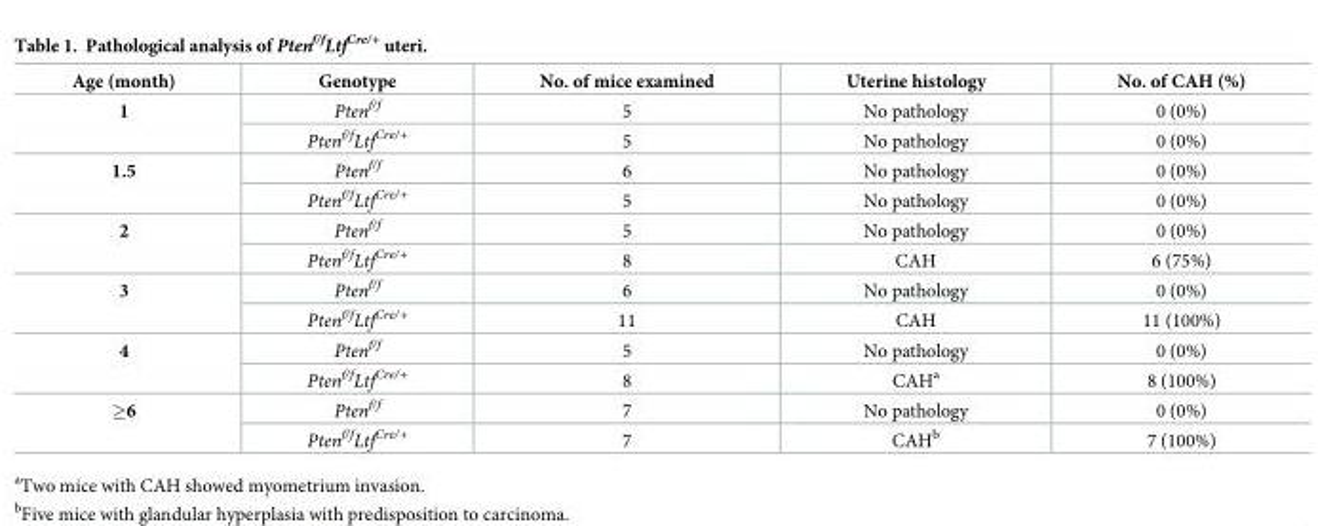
<table><thead><tr><td>Age (month)</td><td>Genotype</td><td>No. of mice examined</td><td>Uterine histology</td><td>No. of CAH (%)</td></tr></thead><tbody><tr><td rowspan="2">1</td><td>Pten<sup>f/f</sup></td><td>5</td><td>No pathology</td><td>0 (0%)</td></tr><tr><td>Pten<sup>f/f</sup>Ltf<sup>Cre/+</sup></td><td>5</td><td>No pathology</td><td>0 (0%)</td></tr><tr><td rowspan="2">1.5</td><td>Pten<sup>f/f</sup></td><td>6</td><td>No pathology</td><td>0 (0%)</td></tr><tr><td>Pten<sup>f/f</sup>Ltf<sup>Cre/+</sup></td><td>5</td><td>No pathology</td><td>0 (0%)</td></tr><tr><td rowspan="2">2</td><td>Pten<sup>f/f</sup></td><td>5</td><td>No pathology</td><td>0 (0%)</td></tr><tr><td>Pten<sup>f/f</sup>Ltf<sup>Cre/+</sup></td><td>8</td><td>CAH</td><td>6 (75%)</td></tr><tr><td rowspan="2">3</td><td>Pten<sup>f/f</sup></td><td>6</td><td>No pathology</td><td>0 (0%)</td></tr><tr><td>Pten<sup>f/f</sup>Ltf<sup>Cre/+</sup></td><td>11</td><td>CAH</td><td>11 (100%)</td></tr><tr><td rowspan="2">4</td><td>Pten<sup>f/f</sup></td><td>5</td><td>No pathology</td><td>0 (0%)</td></tr><tr><td>Pten<sup>f/f</sup>Ltf<sup>Cre/+</sup></td><td>8</td><td>CAH<sup>a</sup></td><td>8 (100%)</td></tr><tr><td rowspan="2">≥6</td><td>Pten<sup>f/f</sup></td><td>7</td><td>No pathology</td><td>0 (0%)</td></tr><tr><td>Pten<sup>f/f</sup>Ltf<sup>Cre/+</sup></td><td>7</td><td>CAH<sup>b</sup></td><td>7 (100%)</td></tr></tbody></table>